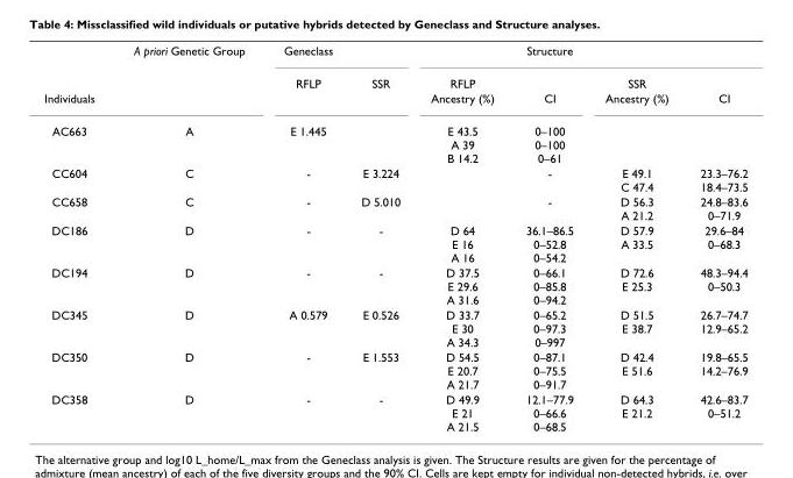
<table><thead><tr><td></td><td>A priori Genetic Group</td><td>Geneclass</td><td></td><td></td><td>Structure</td><td></td><td></td></tr></thead><tbody><tr><td></td><td></td><td>RFLP</td><td>SSR</td><td>RFLP</td><td></td><td>SSR</td><td></td></tr><tr><td>Individuals</td><td></td><td></td><td></td><td>Ancestry (%)</td><td>CI</td><td>Ancestry (%)</td><td>CI</td></tr><tr><td>AC663</td><td>A</td><td>E 1.445</td><td></td><td>E 43.5 A 39 B 14.2</td><td>0–100 0–100 0–61</td><td></td><td></td></tr><tr><td>CC604</td><td>C</td><td>-</td><td>E 3.224</td><td></td><td>-</td><td>E 49.1 C 47.4</td><td>23.3–76.2 18.4–73.5</td></tr><tr><td>CC658</td><td>C</td><td>-</td><td>D 5.010</td><td></td><td>-</td><td>D 56.3 A 21.2</td><td>24.8–83.6 0–71.9</td></tr><tr><td>DC186</td><td>D</td><td>-</td><td>-</td><td>D 64 E 16 A 16</td><td>36.1–86.5 0–52.8 0–54.2</td><td>D 57.9 A 33.5</td><td>29.6–84 0–68.3</td></tr><tr><td>DC194</td><td>D</td><td>-</td><td>-</td><td>D 37.5 E 29.6 A 31.6</td><td>0–66.1 0–85.8 0–94.2</td><td>D 72.6 E 25.3</td><td>48.3–94.4 0–50.3</td></tr><tr><td>DC345</td><td>D</td><td>A 0.579</td><td>E 0.526</td><td>D 33.7 E 30 A 34.3</td><td>0–65.2 0–97.3 0–997</td><td>D 51.5 E 38.7</td><td>26.7–74.7 12.9–65.2</td></tr><tr><td>DC350</td><td>D</td><td>-</td><td>E 1.553</td><td>D 54.5 E 20.7 A 21.7</td><td>0–87.1 0–75.5 0–91.7</td><td>D 42.4 E 51.6</td><td>19.8–65.5 14.2–76.9</td></tr><tr><td>DC358</td><td>D</td><td>-</td><td>-</td><td>D 49.9 E 21 A 21.5</td><td>12.1–77.9 0–66.6 0–68.5</td><td>D 64.3 E 21.2</td><td>42.6–83.7 0–51.2</td></tr></tbody></table>